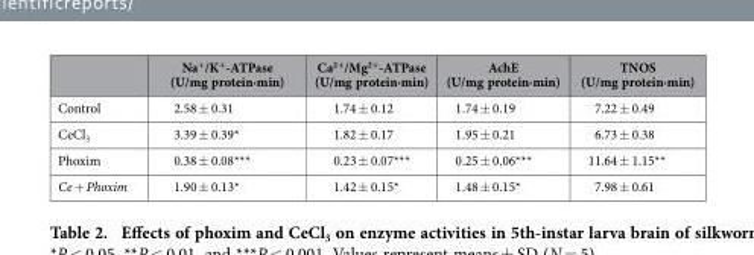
<table><thead><tr><td></td><td>Na<sup>+</sup>/K<sup>+</sup>-ATPase (U/mg protein·min)</td><td>Ca<sup>2+</sup>/Mg<sup>2+</sup>-ATPase (U/mg protein·min)</td><td>AchE (U/mg protein·min)</td><td>TNOS (U/mg protein·min)</td></tr></thead><tbody><tr><td>Control</td><td>2.58 ± 0.31</td><td>1.74 ± 0.12</td><td>1.74 ± 0.19</td><td>7.22 ± 0.49</td></tr><tr><td>CeCl<sub>3</sub></td><td>3.39 ± 0.39*</td><td>1.82 ± 0.17</td><td>1.95 ± 0.21</td><td>6.73 ± 0.38</td></tr><tr><td>Phoxim</td><td>0.38 ± 0.08***</td><td>0.23 ± 0.07***</td><td>0.25 ± 0.06***</td><td>11.64 ± 1.15**</td></tr><tr><td>Ce + Phoxim</td><td>1.90 ± 0.13*</td><td>1.42 ± 0.15*</td><td>1.48 ± 0.15*</td><td>7.98 ± 0.61</td></tr></tbody></table>